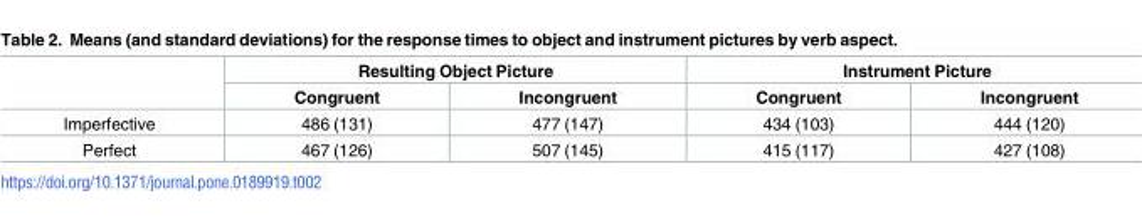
<table><thead><tr><td rowspan="2"></td><td colspan="2">Resulting Object Picture</td><td colspan="2">Instrument Picture</td></tr><tr><td>Congruent</td><td>Incongruent</td><td>Congruent</td><td>Incongruent</td></tr></thead><tbody><tr><td>Imperfective</td><td>486 (131)</td><td>477 (147)</td><td>434 (103)</td><td>444 (120)</td></tr><tr><td>Perfect</td><td>467 (126)</td><td>507 (145)</td><td>415 (117)</td><td>427 (108)</td></tr></tbody></table>